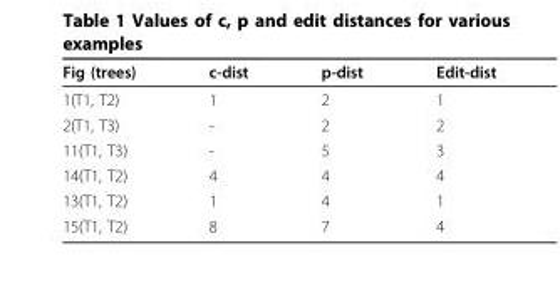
<table><thead><tr><td>Fig (trees)</td><td>c-dist</td><td>p-dist</td><td>Edit-dist</td></tr></thead><tbody><tr><td>1(T1, T2)</td><td>1</td><td>2</td><td>1</td></tr><tr><td>2(T1, T3)</td><td>-</td><td>2</td><td>2</td></tr><tr><td>11(T1, T3)</td><td>-</td><td>5</td><td>3</td></tr><tr><td>14(T1, T2)</td><td>4</td><td>4</td><td>4</td></tr><tr><td>13(T1, T2)</td><td>1</td><td>4</td><td>1</td></tr><tr><td>15(T1, T2)</td><td>8</td><td>7</td><td>4</td></tr></tbody></table>